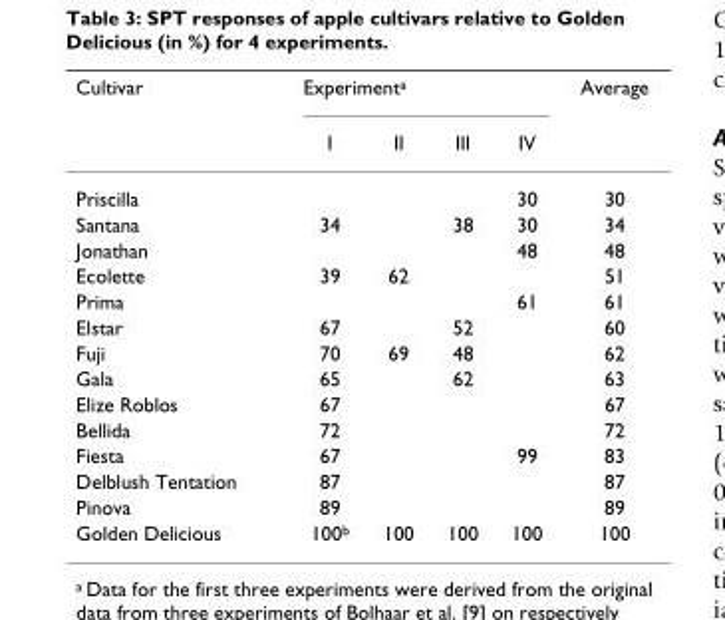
<table><thead><tr><td rowspan="2">Cultivar</td><td colspan="4">Experiment<sup>a</sup></td><td rowspan="2">Average</td></tr><tr><td>I</td><td>II</td><td>III</td><td>IV</td></tr></thead><tbody><tr><td>Priscilla</td><td></td><td></td><td></td><td>30</td><td>30</td></tr><tr><td>Santana</td><td>34</td><td></td><td>38</td><td>30</td><td>34</td></tr><tr><td>Jonathan</td><td></td><td></td><td></td><td>48</td><td>48</td></tr><tr><td>Ecolette</td><td>39</td><td>62</td><td></td><td></td><td>51</td></tr><tr><td>Prima</td><td></td><td></td><td></td><td>61</td><td>61</td></tr><tr><td>Elstar</td><td>67</td><td></td><td>52</td><td></td><td>60</td></tr><tr><td>Fuji</td><td>70</td><td>69</td><td>48</td><td></td><td>62</td></tr><tr><td>Gala</td><td>65</td><td></td><td>62</td><td></td><td>63</td></tr><tr><td>Elize Roblos</td><td>67</td><td></td><td></td><td></td><td>67</td></tr><tr><td>Bellida</td><td>72</td><td></td><td></td><td></td><td>72</td></tr><tr><td>Fiesta</td><td>67</td><td></td><td></td><td>99</td><td>83</td></tr><tr><td>Delblush Tentation</td><td>87</td><td></td><td></td><td></td><td>87</td></tr><tr><td>Pinova</td><td>89</td><td></td><td></td><td></td><td>89</td></tr><tr><td>Golden Delicious</td><td>100<sup>b</sup></td><td>100</td><td>100</td><td>100</td><td>100</td></tr></tbody></table>